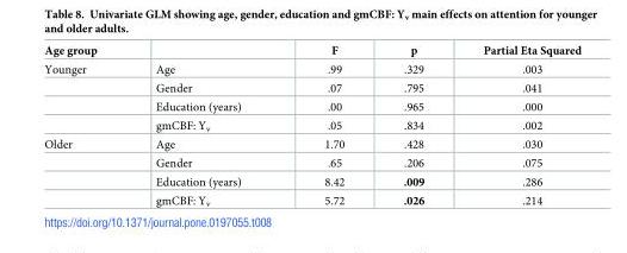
<table><thead><tr><td>Age group</td><td></td><td>F</td><td>p</td><td>Partial Eta Squared</td></tr></thead><tbody><tr><td rowspan="4">Younger</td><td>Age</td><td>.99</td><td>.329</td><td>.003</td></tr><tr><td>Gender</td><td>.07</td><td>.795</td><td>.041</td></tr><tr><td>Education (years)</td><td>.00</td><td>.965</td><td>.000</td></tr><tr><td>gmCBF: Y<sub>v</sub></td><td>.05</td><td>.834</td><td>.002</td></tr><tr><td rowspan="4">Older</td><td>Age</td><td>1.70</td><td>.428</td><td>.030</td></tr><tr><td>Gender</td><td>.65</td><td>.206</td><td>.075</td></tr><tr><td>Education (years)</td><td>8.42</td><td>.009</td><td>.286</td></tr><tr><td>gmCBF: Y<sub>v</sub></td><td>5.72</td><td>.026</td><td>.214</td></tr></tbody></table>